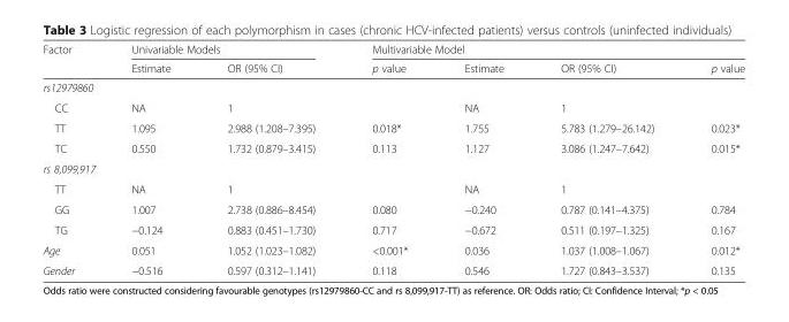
<table><thead><tr><td rowspan="2">Factor</td><td colspan="2">Univariable Models</td><td colspan="4">Multivariable Model</td></tr><tr><td>Estimate</td><td>OR (95% CI)</td><td>p value</td><td>Estimate</td><td>OR (95% CI)</td><td>p value</td></tr></thead><tbody><tr><td colspan="7">rs12979860</td></tr><tr><td>CC</td><td>NA</td><td>1</td><td></td><td>NA</td><td>1</td><td></td></tr><tr><td>TT</td><td>1.095</td><td>2.988 (1.208–7.395)</td><td>0.018*</td><td>1.755</td><td>5.783 (1.279–26.142)</td><td>0.023*</td></tr><tr><td>TC</td><td>0.550</td><td>1.732 (0.879–3.415)</td><td>0.113</td><td>1.127</td><td>3.086 (1.247–7.642)</td><td>0.015*</td></tr><tr><td colspan="7">rs 8,099,917</td></tr><tr><td>TT</td><td>NA</td><td>1</td><td></td><td>NA</td><td>1</td><td></td></tr><tr><td>GG</td><td>1.007</td><td>2.738 (0.886–8.454)</td><td>0.080</td><td>−0.240</td><td>0.787 (0.141–4.375)</td><td>0.784</td></tr><tr><td>TG</td><td>−0.124</td><td>0.883 (0.451–1.730)</td><td>0.717</td><td>−0.672</td><td>0.511 (0.197–1.325)</td><td>0.167</td></tr><tr><td>Age</td><td>0.051</td><td>1.052 (1.023–1.082)</td><td>&lt;0.001*</td><td>0.036</td><td>1.037 (1.008–1.067)</td><td>0.012*</td></tr><tr><td>Gender</td><td>−0.516</td><td>0.597 (0.312–1.141)</td><td>0.118</td><td>0.546</td><td>1.727 (0.843–3.537)</td><td>0.135</td></tr></tbody></table>